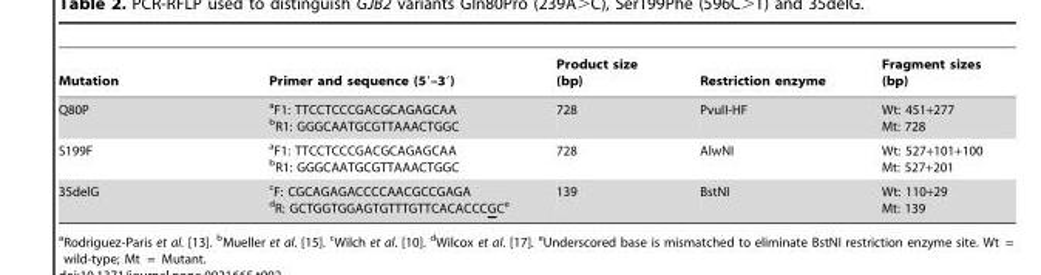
<table><thead><tr><td>Mutation</td><td>Primer and sequence (5′–3′)</td><td>Product size (bp)</td><td>Restriction enzyme</td><td>Fragment sizes (bp)</td></tr></thead><tbody><tr><td>Q80P</td><td>aF1: TTCCTCCCGACGCAGAGCAA <sup>b</sup>R1: GGGCAATGCGTTAAACTGGC</td><td>728</td><td>PvuII-HF</td><td>Wt: 451+277 Mt: 728</td></tr><tr><td>S199F</td><td>aF1: TTCCTCCCGACGCAGAGCAA <sup>b</sup>R1: GGGCAATGCGTTAAACTGGC</td><td>728</td><td>AlwNI</td><td>Wt: 527+101+100 Mt: 527+201</td></tr><tr><td>35delG</td><td><sup>c</sup>F: CGCAGAGACCCCAACGCCGAGA <sup>d</sup>R: GCTGGTGGAGTGTTTGTTCACACCCGC<sup>e</sup></td><td>139</td><td>BstNI</td><td>Wt: 110+29 Mt: 139</td></tr></tbody></table>